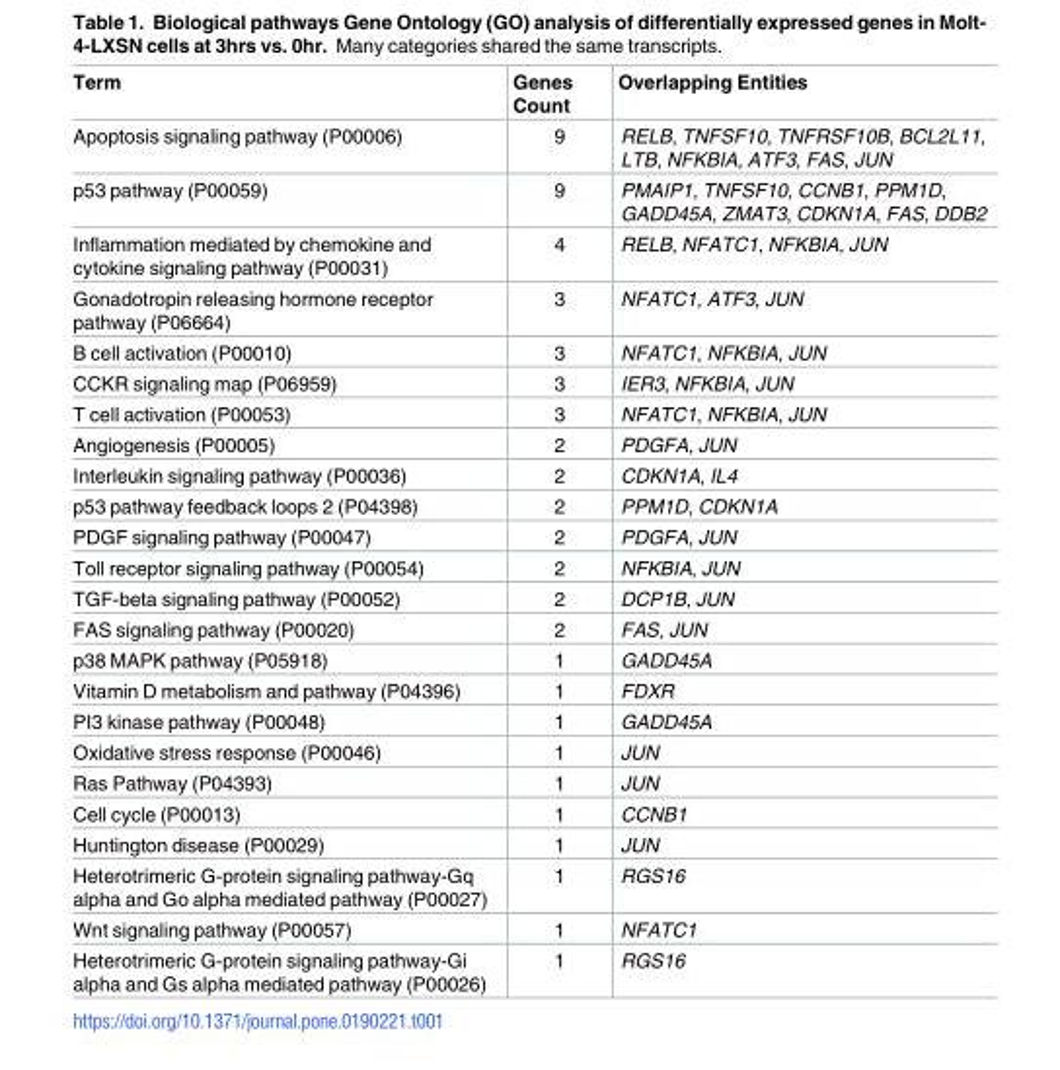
<table><thead><tr><td>Term</td><td>Genes Count</td><td>Overlapping Entities</td></tr></thead><tbody><tr><td>Apoptosis signaling pathway (P00006)</td><td>9</td><td>RELB, TNFSF10, TNFRSF10B, BCL2L11, LTB, NFKBIA, ATF3, FAS, JUN</td></tr><tr><td>p53 pathway (P00059)</td><td>9</td><td>PMAIP1, TNFSF10, CCNB1, PPM1D, GADD45A, ZMAT3, CDKN1A, FAS, DDB2</td></tr><tr><td>Inflammation mediated by chemokine and cytokine signaling pathway (P00031)</td><td>4</td><td>RELB, NFATC1, NFKBIA, JUN</td></tr><tr><td>Gonadotropin releasing hormone receptor pathway (P06664)</td><td>3</td><td>NFATC1, ATF3, JUN</td></tr><tr><td>B cell activation (P00010)</td><td>3</td><td>NFATC1, NFKBIA, JUN</td></tr><tr><td>CCKR signaling map (P06959)</td><td>3</td><td>IER3, NFKBIA, JUN</td></tr><tr><td>T cell activation (P00053)</td><td>3</td><td>NFATC1, NFKBIA, JUN</td></tr><tr><td>Angiogenesis (P00005)</td><td>2</td><td>PDGFA, JUN</td></tr><tr><td>Interleukin signaling pathway (P00036)</td><td>2</td><td>CDKN1A, IL4</td></tr><tr><td>p53 pathway feedback loops 2 (P04398)</td><td>2</td><td>PPM1D, CDKN1A</td></tr><tr><td>PDGF signaling pathway (P00047)</td><td>2</td><td>PDGFA, JUN</td></tr><tr><td>Toll receptor signaling pathway (P00054)</td><td>2</td><td>NFKBIA, JUN</td></tr><tr><td>TGF-beta signaling pathway (P00052)</td><td>2</td><td>DCP1B, JUN</td></tr><tr><td>FAS signaling pathway (P00020)</td><td>2</td><td>FAS, JUN</td></tr><tr><td>p38 MAPK pathway (P05918)</td><td>1</td><td>GADD45A</td></tr><tr><td>Vitamin D metabolism and pathway (P04396)</td><td>1</td><td>FDXR</td></tr><tr><td>PI3 kinase pathway (P00048)</td><td>1</td><td>GADD45A</td></tr><tr><td>Oxidative stress response (P00046)</td><td>1</td><td>JUN</td></tr><tr><td>Ras Pathway (P04393)</td><td>1</td><td>JUN</td></tr><tr><td>Cell cycle (P00013)</td><td>1</td><td>CCNB1</td></tr><tr><td>Huntington disease (P00029)</td><td>1</td><td>JUN</td></tr><tr><td>Heterotrimeric G-protein signaling pathway-Gq alpha and Go alpha mediated pathway (P00027)</td><td>1</td><td>RGS16</td></tr><tr><td>Wnt signaling pathway (P00057)</td><td>1</td><td>NFATC1</td></tr><tr><td>Heterotrimeric G-protein signaling pathway-Gi alpha and Gs alpha mediated pathway (P00026)</td><td>1</td><td>RGS16</td></tr></tbody></table>